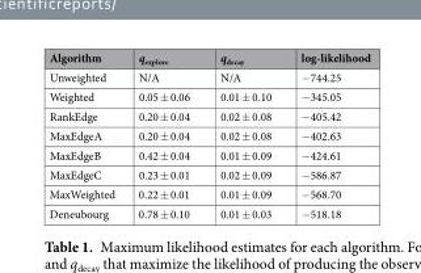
<table><thead><tr><td>Algorithm</td><td>q<sub>explore</sub></td><td>q<sub>decay</sub></td><td>log-likelihood</td></tr></thead><tbody><tr><td>Unweighted</td><td>N/A</td><td>N/A</td><td>−744.25</td></tr><tr><td>Weighted</td><td>0.05 ± 0.06</td><td>0.01 ± 0.10</td><td>−345.05</td></tr><tr><td>RankEdge</td><td>0.20 ± 0.04</td><td>0.02 ± 0.08</td><td>−405.42</td></tr><tr><td>MaxEdgeA</td><td>0.20 ± 0.04</td><td>0.02 ± 0.08</td><td>−402.63</td></tr><tr><td>MaxEdgeB</td><td>0.42 ± 0.04</td><td>0.01 ± 0.09</td><td>−424.61</td></tr><tr><td>MaxEdgeC</td><td>0.23 ± 0.01</td><td>0.02 ± 0.09</td><td>−586.87</td></tr><tr><td>MaxWeighted</td><td>0.22 ± 0.01</td><td>0.01 ± 0.09</td><td>−568.70</td></tr><tr><td>Deneubourg</td><td>0.78 ± 0.10</td><td>0.01 ± 0.03</td><td>−518.18</td></tr></tbody></table>